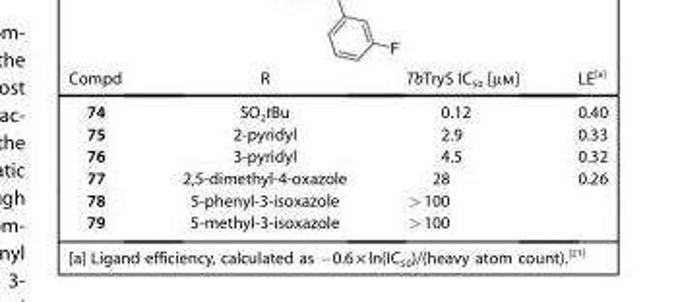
<table><thead><tr><td>Compd</td><td>R</td><td>TbTryS IC<sub>50</sub> [μm]</td><td>LE<sup>[a]</sup></td></tr></thead><tbody><tr><td>74</td><td>SO<sub>2</sub>tBu</td><td>0.12</td><td>0.40</td></tr><tr><td>75</td><td>2-pyridyl</td><td>2.9</td><td>0.33</td></tr><tr><td>76</td><td>3-pyridyl</td><td>4.5</td><td>0.32</td></tr><tr><td>77</td><td>2,5-dimethyl-4-oxazole</td><td>28</td><td>0.26</td></tr><tr><td>78</td><td>5-phenyl-3-isoxazole</td><td>&gt;100</td><td></td></tr><tr><td>79</td><td>5-methyl-3-isoxazole</td><td>&gt;100</td><td></td></tr></tbody></table>